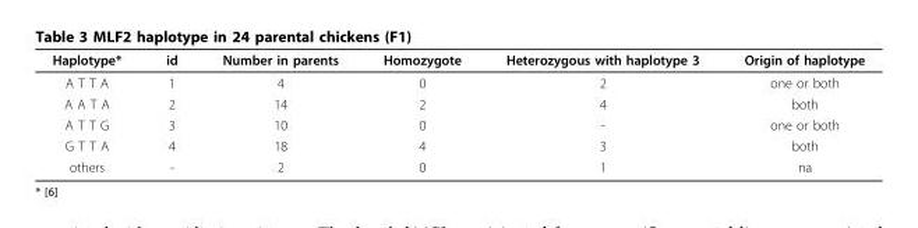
<table><thead><tr><td>Haplotype*</td><td>id</td><td>Number in parents</td><td>Homozygote</td><td>Heterozygous with haplotype 3</td><td>Origin of haplotype</td></tr></thead><tbody><tr><td>A T T A</td><td>1</td><td>4</td><td>0</td><td>2</td><td>one or both</td></tr><tr><td>A A T A</td><td>2</td><td>14</td><td>2</td><td>4</td><td>both</td></tr><tr><td>A T T G</td><td>3</td><td>10</td><td>0</td><td>-</td><td>one or both</td></tr><tr><td>G T T A</td><td>4</td><td>18</td><td>4</td><td>3</td><td>both</td></tr><tr><td>others</td><td>-</td><td>2</td><td>0</td><td>1</td><td>na</td></tr></tbody></table>